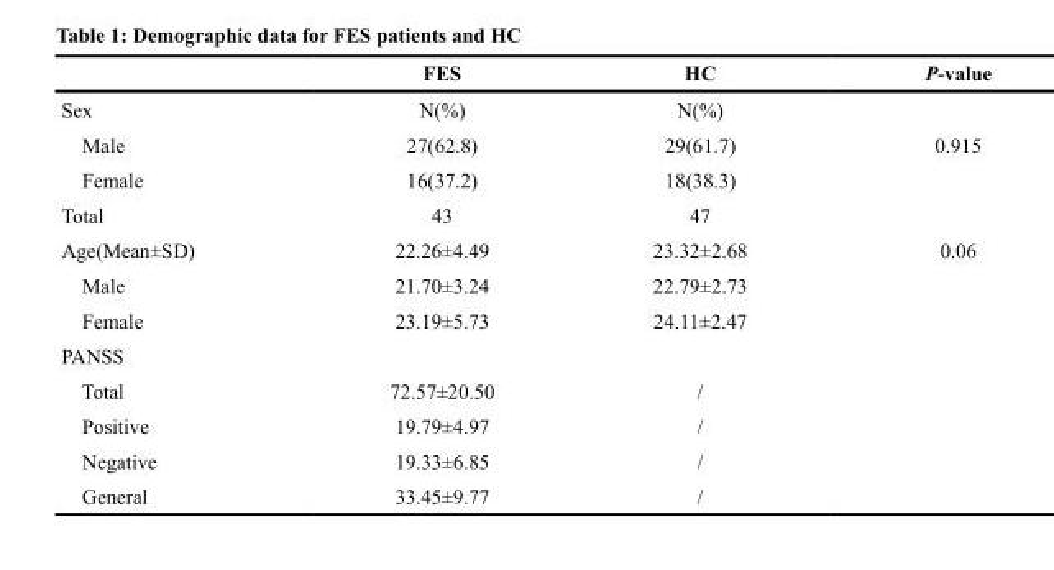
<table><thead><tr><td></td><td>FES</td><td>HC</td><td>P-value</td></tr></thead><tbody><tr><td>Sex</td><td>N(%)</td><td>N(%)</td><td></td></tr><tr><td>Male</td><td>27(62.8)</td><td>29(61.7)</td><td>0.915</td></tr><tr><td>Female</td><td>16(37.2)</td><td>18(38.3)</td><td></td></tr><tr><td>Total</td><td>43</td><td>47</td><td></td></tr><tr><td>Age(Mean±SD)</td><td>22.26±4.49</td><td>23.32±2.68</td><td>0.06</td></tr><tr><td>Male</td><td>21.70±3.24</td><td>22.79±2.73</td><td></td></tr><tr><td>Female</td><td>23.19±5.73</td><td>24.11±2.47</td><td></td></tr><tr><td colspan="4">PANSS</td></tr><tr><td>Total</td><td>72.57±20.50</td><td>/</td><td></td></tr><tr><td>Positive</td><td>19.79±4.97</td><td>/</td><td></td></tr><tr><td>Negative</td><td>19.33±6.85</td><td>/</td><td></td></tr><tr><td>General</td><td>33.45±9.77</td><td>/</td><td></td></tr></tbody></table>